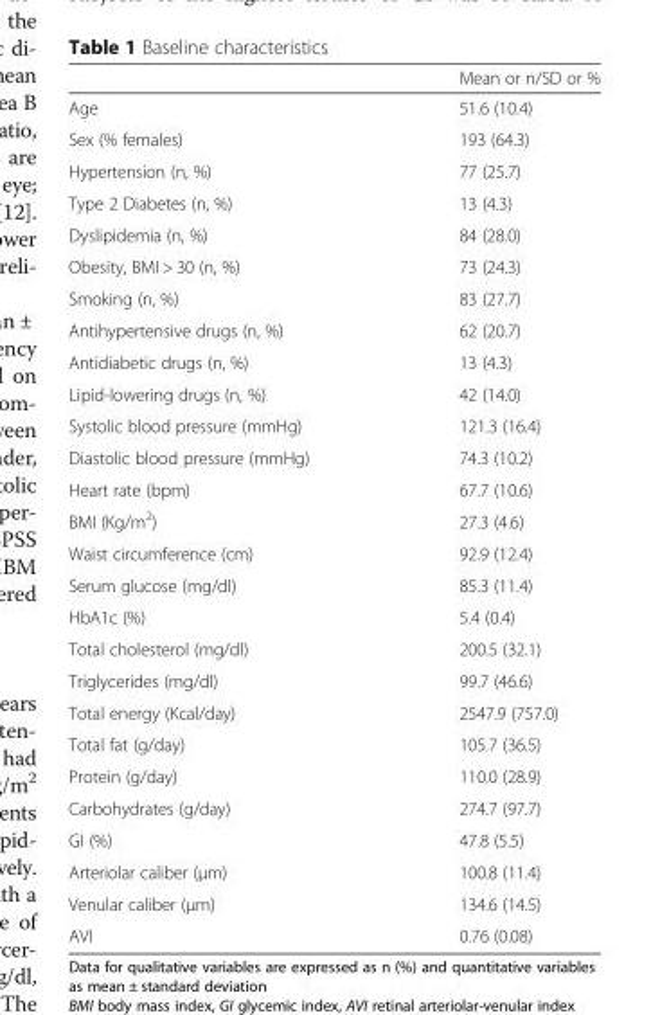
<table><thead><tr><td></td><td>Mean or n/SD or %</td></tr></thead><tbody><tr><td>Age</td><td>51.6 (10.4)</td></tr><tr><td>Sex (% females)</td><td>193 (64.3)</td></tr><tr><td>Hypertension (n, %)</td><td>77 (25.7)</td></tr><tr><td>Type 2 Diabetes (n, %)</td><td>13 (4.3)</td></tr><tr><td>Dyslipidemia (n, %)</td><td>84 (28.0)</td></tr><tr><td>Obesity, BMI &gt; 30 (n, %)</td><td>73 (24.3)</td></tr><tr><td>Smoking (n, %)</td><td>83 (27.7)</td></tr><tr><td>Antihypertensive drugs (n, %)</td><td>62 (20.7)</td></tr><tr><td>Antidiabetic drugs (n, %)</td><td>13 (4.3)</td></tr><tr><td>Lipid-lowering drugs (n, %)</td><td>42 (14.0)</td></tr><tr><td>Systolic blood pressure (mmHg)</td><td>121.3 (16.4)</td></tr><tr><td>Diastolic blood pressure (mmHg)</td><td>74.3 (10.2)</td></tr><tr><td>Heart rate (bpm)</td><td>67.7 (10.6)</td></tr><tr><td>BMI (Kg/m<sup>2</sup>)</td><td>27.3 (4.6)</td></tr><tr><td>Waist circumference (cm)</td><td>92.9 (12.4)</td></tr><tr><td>Serum glucose (mg/dl)</td><td>85.3 (11.4)</td></tr><tr><td>HbA1c (%)</td><td>5.4 (0.4)</td></tr><tr><td>Total cholesterol (mg/dl)</td><td>200.5 (32.1)</td></tr><tr><td>Triglycerides (mg/dl)</td><td>99.7 (46.6)</td></tr><tr><td>Total energy (Kcal/day)</td><td>2547.9 (757.0)</td></tr><tr><td>Total fat (g/day)</td><td>105.7 (36.5)</td></tr><tr><td>Protein (g/day)</td><td>110.0 (28.9)</td></tr><tr><td>Carbohydrates (g/day)</td><td>274.7 (97.7)</td></tr><tr><td>GI (%)</td><td>47.8 (5.5)</td></tr><tr><td>Arteriolar caliber (μm)</td><td>100.8 (11.4)</td></tr><tr><td>Venular caliber (μm)</td><td>134.6 (14.5)</td></tr><tr><td>AVI</td><td>0.76 (0.08)</td></tr></tbody></table>